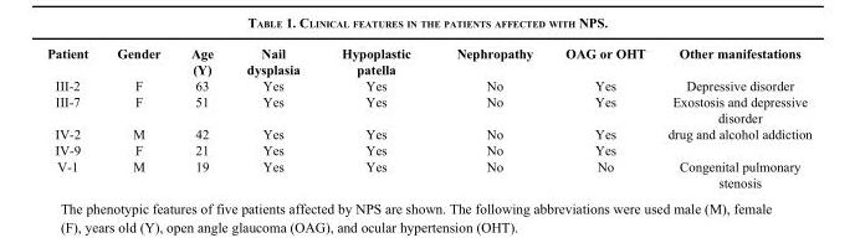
<table><thead><tr><td>Patient</td><td>Gender</td><td>Age (Y)</td><td>Nail dysplasia</td><td>Hypoplastic patella</td><td>Nephropathy</td><td>OAG or OHT</td><td>Other manifestations</td></tr></thead><tbody><tr><td>III-2</td><td>F</td><td>63</td><td>Yes</td><td>Yes</td><td>No</td><td>Yes</td><td>Depressive disorder</td></tr><tr><td>III-7</td><td>F</td><td>51</td><td>Yes</td><td>Yes</td><td>No</td><td>Yes</td><td>Exostosis and depressive disorder</td></tr><tr><td>IV-2</td><td>M</td><td>42</td><td>Yes</td><td>Yes</td><td>No</td><td>Yes</td><td>drug and alcohol addiction</td></tr><tr><td>IV-9</td><td>F</td><td>21</td><td>Yes</td><td>Yes</td><td>No</td><td>Yes</td><td></td></tr><tr><td>V-1</td><td>M</td><td>19</td><td>Yes</td><td>Yes</td><td>No</td><td>No</td><td>Congenital pulmonary stenosis</td></tr></tbody></table>